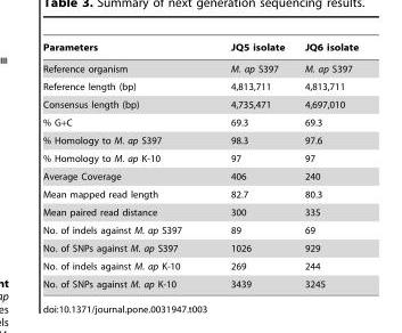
<table><thead><tr><td>Parameters</td><td>JQ5 isolate</td><td>JQ6 isolate</td></tr></thead><tbody><tr><td>Reference organism</td><td>M. ap S397</td><td>M. ap S397</td></tr><tr><td>Reference length (bp)</td><td>4,813,711</td><td>4,813,711</td></tr><tr><td>Consensus length (bp)</td><td>4,735,471</td><td>4,697,010</td></tr><tr><td>% G+C</td><td>69.3</td><td>69.3</td></tr><tr><td>% Homology to M. ap S397</td><td>98.3</td><td>97.6</td></tr><tr><td>% Homology to M. ap K-10</td><td>97</td><td>97</td></tr><tr><td>Average Coverage</td><td>406</td><td>240</td></tr><tr><td>Mean mapped read length</td><td>82.7</td><td>80.3</td></tr><tr><td>Mean paired read distance</td><td>300</td><td>335</td></tr><tr><td>No. of indels against M. ap S397</td><td>89</td><td>69</td></tr><tr><td>No. of SNPs against M. ap S397</td><td>1026</td><td>929</td></tr><tr><td>No. of indels against M. ap K-10</td><td>269</td><td>244</td></tr><tr><td>No. of SNPs against M. ap K-10</td><td>3439</td><td>3245</td></tr></tbody></table>